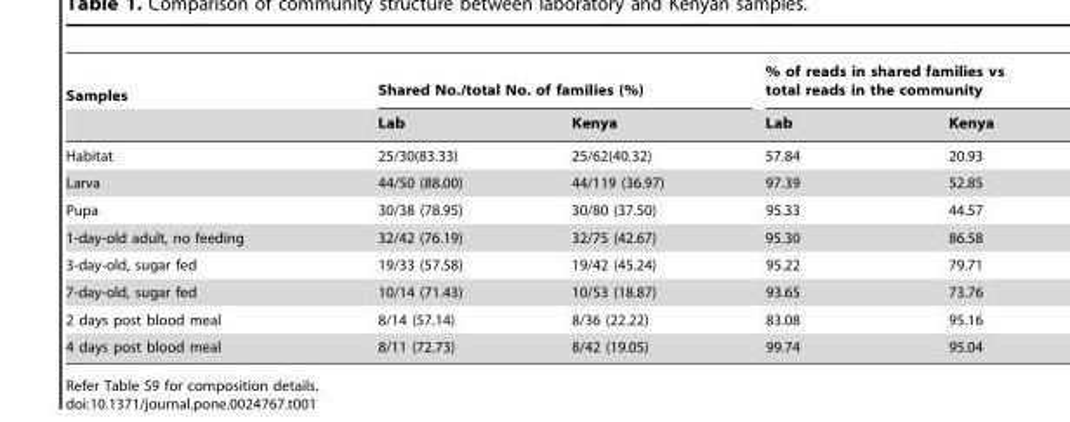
<table><thead><tr><td rowspan="2">Samples</td><td colspan="2">Shared No./total No. of families (%)</td><td colspan="2">% of reads in shared families vs total reads in the community</td></tr><tr><td>Lab</td><td>Kenya</td><td>Lab</td><td>Kenya</td></tr></thead><tbody><tr><td>Habitat</td><td>25/30(83.33)</td><td>25/62(40.32)</td><td>57.84</td><td>20.93</td></tr><tr><td>Larva</td><td>44/50 (88.00)</td><td>44/119 (36.97)</td><td>97.39</td><td>52.85</td></tr><tr><td>Pupa</td><td>30/38 (78.95)</td><td>30/80 (37.50)</td><td>95.33</td><td>44.57</td></tr><tr><td>1-day-old adult, no feeding</td><td>32/42 (76.19)</td><td>32/75 (42.67)</td><td>95.30</td><td>86.58</td></tr><tr><td>3-day-old, sugar fed</td><td>19/33 (57.58)</td><td>19/42 (45.24)</td><td>95.22</td><td>79.71</td></tr><tr><td>7-day-old, sugar fed</td><td>10/14 (71.43)</td><td>10/53 (18.87)</td><td>93.65</td><td>73.76</td></tr><tr><td>2 days post blood meal</td><td>8/14 (57.14)</td><td>8/36 (22.22)</td><td>83.08</td><td>95.16</td></tr><tr><td>4 days post blood meal</td><td>8/11 (72.73)</td><td>8/42 (19.05)</td><td>99.74</td><td>95.04</td></tr></tbody></table>